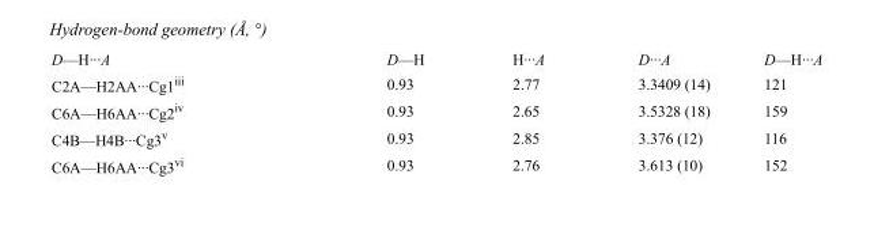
<table><tbody><tr><td>D—H···A</td><td>D—H</td><td>H···A</td><td>D···A</td><td>D—H···A</td></tr><tr><td>C2A—H2AA···Cg1<sup>iii</sup></td><td>0.93</td><td>2.77</td><td>3.3409 (14)</td><td>121</td></tr><tr><td>C6A—H6AA···Cg2<sup>iv</sup></td><td>0.93</td><td>2.65</td><td>3.5328 (18)</td><td>159</td></tr><tr><td>C4B—H4B···Cg3<sup>v</sup></td><td>0.93</td><td>2.85</td><td>3.376 (12)</td><td>116</td></tr><tr><td>C6A—H6AA···Cg3<sup>vi</sup></td><td>0.93</td><td>2.76</td><td>3.613 (10)</td><td>152</td></tr></tbody></table>